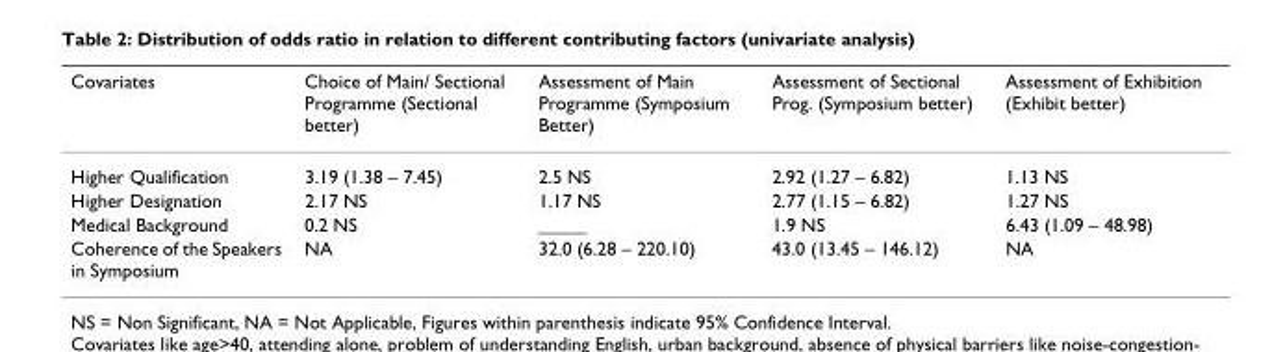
<table><thead><tr><td>Covariates</td><td>Choice of Main/ Sectional Programme (Sectional better)</td><td>Assessment of Main Programme (Symposium Better)</td><td>Assessment of Sectional Prog. (Symposium better)</td><td>Assessment of Exhibition (Exhibit better)</td></tr></thead><tbody><tr><td>Higher Qualification</td><td>3.19 (1.38 – 7.45)</td><td>2.5 NS</td><td>2.92 (1.27 – 6.82)</td><td>1.13 NS</td></tr><tr><td>Higher Designation</td><td>2.17 NS</td><td>1.17 NS</td><td>2.77 (1.15 – 6.82)</td><td>1.27 NS</td></tr><tr><td>Medical Background</td><td>0.2 NS</td><td>_____</td><td>1.9 NS</td><td>6.43 (1.09 – 48.98)</td></tr><tr><td>Coherence of the Speakers in Symposium</td><td>NA</td><td>32.0 (6.28 – 220.10)</td><td>43.0 (13.45 – 146.12)</td><td>NA</td></tr></tbody></table>